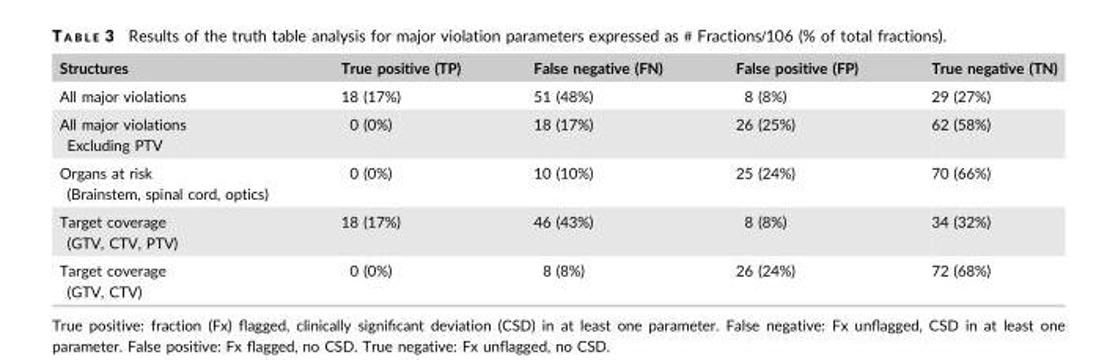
<table><thead><tr><td>Structures</td><td>True positive (TP)</td><td>False negative (FN)</td><td>False positive (FP)</td><td>True negative (TN)</td></tr></thead><tbody><tr><td>All major violations</td><td>18 (17%)</td><td>51 (48%)</td><td>8 (8%)</td><td>29 (27%)</td></tr><tr><td>All major violations Excluding PTV</td><td>0 (0%)</td><td>18 (17%)</td><td>26 (25%)</td><td>62 (58%)</td></tr><tr><td>Organs at risk (Brainstem, spinal cord, optics)</td><td>0 (0%)</td><td>10 (10%)</td><td>25 (24%)</td><td>70 (66%)</td></tr><tr><td>Target coverage (GTV, CTV, PTV)</td><td>18 (17%)</td><td>46 (43%)</td><td>8 (8%)</td><td>34 (32%)</td></tr><tr><td>Target coverage (GTV, CTV)</td><td>0 (0%)</td><td>8 (8%)</td><td>26 (24%)</td><td>72 (68%)</td></tr></tbody></table>